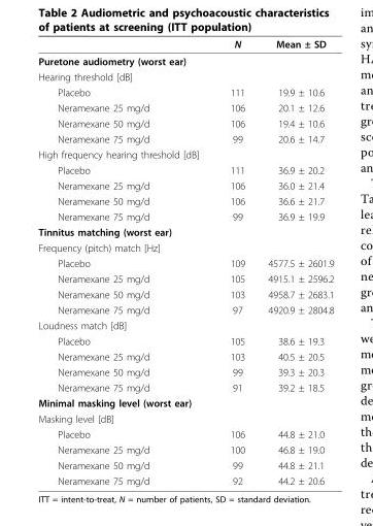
<table><thead><tr><td></td><td>N</td><td>Mean ± SD</td></tr></thead><tbody><tr><td colspan="3">Puretone audiometry (worst ear)</td></tr><tr><td colspan="3">Hearing threshold [dB]</td></tr><tr><td>Placebo</td><td>111</td><td>19.9 ± 10.6</td></tr><tr><td>Neramexane 25 mg/d</td><td>106</td><td>20.1 ± 12.6</td></tr><tr><td>Neramexane 50 mg/d</td><td>106</td><td>19.4 ± 10.6</td></tr><tr><td>Neramexane 75 mg/d</td><td>99</td><td>20.6 ± 14.7</td></tr><tr><td colspan="3">High frequency hearing threshold [dB]</td></tr><tr><td>Placebo</td><td>111</td><td>36.9 ± 20.2</td></tr><tr><td>Neramexane 25 mg/d</td><td>106</td><td>36.0 ± 21.4</td></tr><tr><td>Neramexane 50 mg/d</td><td>106</td><td>36.6 ± 21.7</td></tr><tr><td>Neramexane 75 mg/d</td><td>99</td><td>36.9 ± 19.9</td></tr><tr><td colspan="3">Tinnitus matching (worst ear)</td></tr><tr><td colspan="3">Frequency (pitch) match [Hz]</td></tr><tr><td>Placebo</td><td>109</td><td>4577.5 ± 2601.9</td></tr><tr><td>Neramexane 25 mg/d</td><td>105</td><td>4915.1 ± 2596.2</td></tr><tr><td>Neramexane 50 mg/d</td><td>103</td><td>4958.7 ± 2683.1</td></tr><tr><td>Neramexane 75 mg/d</td><td>97</td><td>4920.9 ± 2804.8</td></tr><tr><td colspan="3">Loudness match [dB]</td></tr><tr><td>Placebo</td><td>105</td><td>38.6 ± 19.3</td></tr><tr><td>Neramexane 25 mg/d</td><td>103</td><td>40.5 ± 20.5</td></tr><tr><td>Neramexane 50 mg/d</td><td>99</td><td>39.3 ± 20.3</td></tr><tr><td>Neramexane 75 mg/d</td><td>91</td><td>39.2 ± 18.5</td></tr><tr><td colspan="3">Minimal masking level (worst ear)</td></tr><tr><td colspan="3">Masking level [dB]</td></tr><tr><td>Placebo</td><td>106</td><td>44.8 ± 21.0</td></tr><tr><td>Neramexane 25 mg/d</td><td>100</td><td>46.8 ± 19.0</td></tr><tr><td>Neramexane 50 mg/d</td><td>99</td><td>44.8 ± 21.1</td></tr><tr><td>Neramexane 75 mg/d</td><td>92</td><td>44.2 ± 20.6</td></tr></tbody></table>